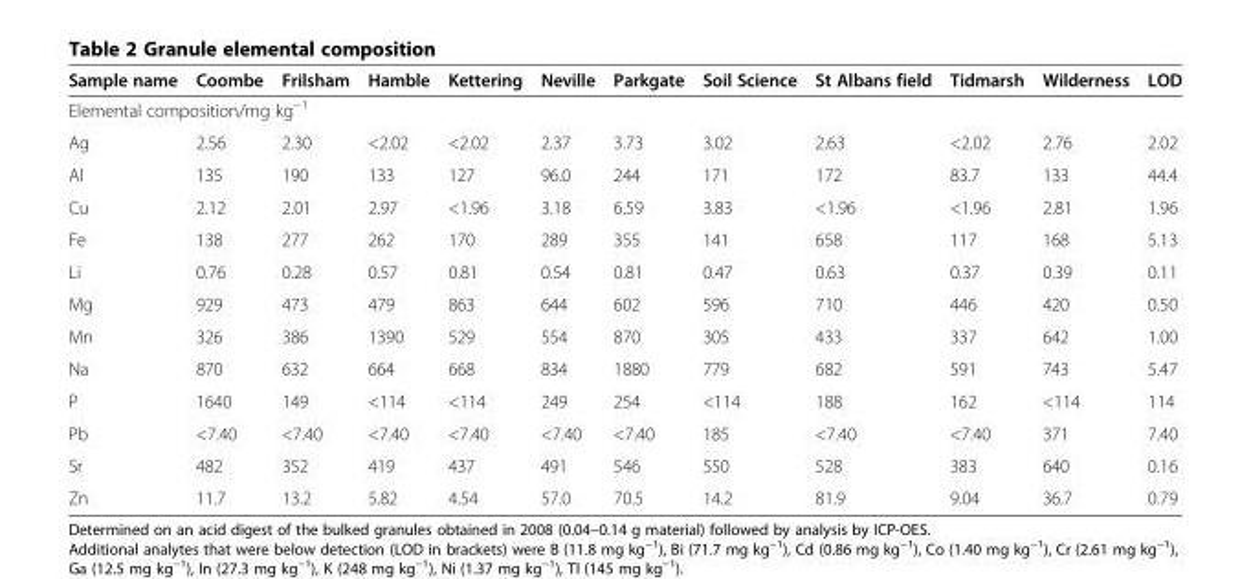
<table><thead><tr><td>Sample name</td><td>Coombe</td><td>Frilsham</td><td>Hamble</td><td>Kettering</td><td>Neville</td><td>Parkgate</td><td>Soil Science</td><td>St Albans field</td><td>Tidmarsh</td><td>Wilderness</td><td>LOD</td></tr></thead><tbody><tr><td colspan="12">Elemental composition/mg kg<sup>−1</sup></td></tr><tr><td>Ag</td><td>2.56</td><td>2.30</td><td>&lt;2.02</td><td>&lt;2.02</td><td>2.37</td><td>3.73</td><td>3.02</td><td>2.63</td><td>&lt;2.02</td><td>2.76</td><td>2.02</td></tr><tr><td>Al</td><td>135</td><td>190</td><td>133</td><td>127</td><td>96.0</td><td>244</td><td>171</td><td>172</td><td>83.7</td><td>133</td><td>44.4</td></tr><tr><td>Cu</td><td>2.12</td><td>2.01</td><td>2.97</td><td>&lt;1.96</td><td>3.18</td><td>6.59</td><td>3.83</td><td>&lt;1.96</td><td>&lt;1.96</td><td>2.81</td><td>1.96</td></tr><tr><td>Fe</td><td>138</td><td>277</td><td>262</td><td>170</td><td>289</td><td>355</td><td>141</td><td>658</td><td>117</td><td>168</td><td>5.13</td></tr><tr><td>Li</td><td>0.76</td><td>0.28</td><td>0.57</td><td>0.81</td><td>0.54</td><td>0.81</td><td>0.47</td><td>0.63</td><td>0.37</td><td>0.39</td><td>0.11</td></tr><tr><td>Mg</td><td>929</td><td>473</td><td>479</td><td>863</td><td>644</td><td>602</td><td>596</td><td>710</td><td>446</td><td>420</td><td>0.50</td></tr><tr><td>Mn</td><td>326</td><td>386</td><td>1390</td><td>529</td><td>554</td><td>870</td><td>305</td><td>433</td><td>337</td><td>642</td><td>1.00</td></tr><tr><td>Na</td><td>870</td><td>632</td><td>664</td><td>668</td><td>834</td><td>1880</td><td>779</td><td>682</td><td>591</td><td>743</td><td>5.47</td></tr><tr><td>P</td><td>1640</td><td>149</td><td>&lt;114</td><td>&lt;114</td><td>249</td><td>254</td><td>&lt;114</td><td>188</td><td>162</td><td>&lt;114</td><td>114</td></tr><tr><td>Pb</td><td>&lt;7.40</td><td>&lt;7.40</td><td>&lt;7.40</td><td>&lt;7.40</td><td>&lt;7.40</td><td>&lt;7.40</td><td>185</td><td>&lt;7.40</td><td>&lt;7.40</td><td>371</td><td>7.40</td></tr><tr><td>Sr</td><td>482</td><td>352</td><td>419</td><td>437</td><td>491</td><td>546</td><td>550</td><td>528</td><td>383</td><td>640</td><td>0.16</td></tr><tr><td>Zn</td><td>11.7</td><td>13.2</td><td>5.82</td><td>4.54</td><td>57.0</td><td>70.5</td><td>14.2</td><td>81.9</td><td>9.04</td><td>36.7</td><td>0.79</td></tr></tbody></table>